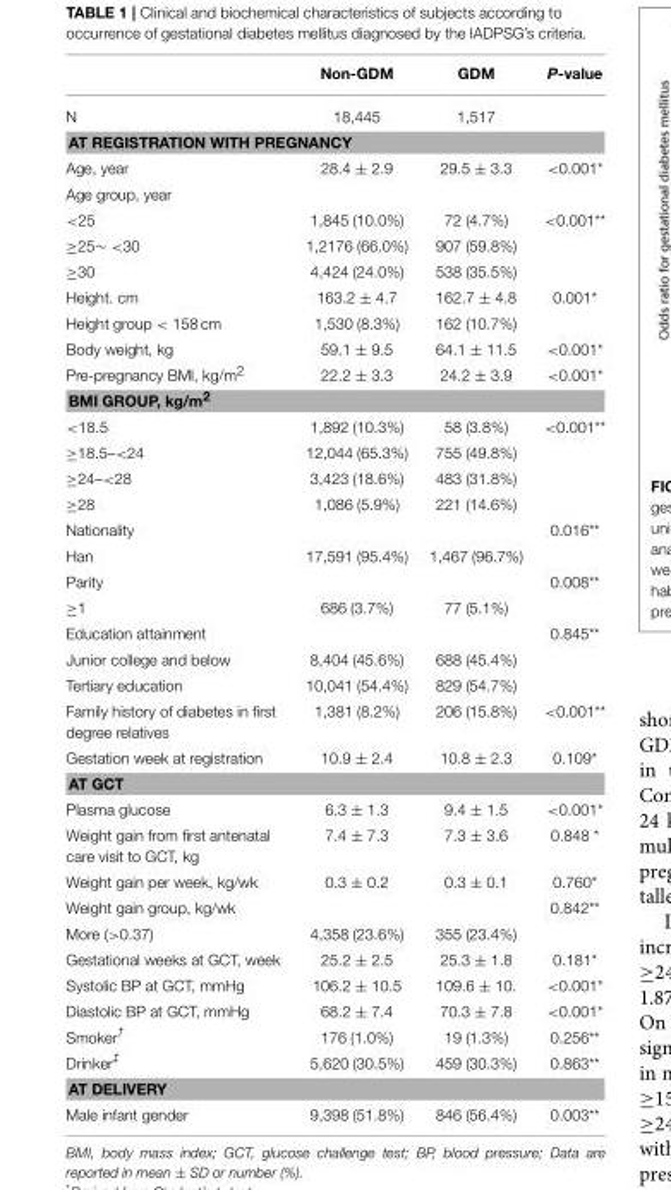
<table><thead><tr><td></td><td>Non-GDM</td><td>GDM</td><td>P-value</td></tr></thead><tbody><tr><td>N</td><td>18,445</td><td>1,517</td><td></td></tr><tr><td colspan="4">AT REGISTRATION WITH PREGNANCY</td></tr><tr><td>Age, year</td><td>28.4 ± 2.9</td><td>29.5 ± 3.3</td><td>&lt;0.001*</td></tr><tr><td colspan="4">Age group, year</td></tr><tr><td>&lt;25</td><td>1,845 (10.0%)</td><td>72 (4.7%)</td><td>&lt;0.001**</td></tr><tr><td>≥25∼ &lt;30</td><td>1,2176 (66.0%)</td><td>907 (59.8%)</td><td></td></tr><tr><td>≥30</td><td>4,424 (24.0%)</td><td>538 (35.5%)</td><td></td></tr><tr><td>Height. cm</td><td>163.2 ± 4.7</td><td>162.7 ± 4.8</td><td>0.001*</td></tr><tr><td>Height group &lt; 158 cm</td><td>1,530 (8.3%)</td><td>162 (10.7%)</td><td></td></tr><tr><td>Body weight, kg</td><td>59.1 ± 9.5</td><td>64.1 ± 11.5</td><td>&lt;0.001*</td></tr><tr><td>Pre-pregnancy BMI, kg/m<sup>2</sup></td><td>22.2 ± 3.3</td><td>24.2 ± 3.9</td><td>&lt;0.001*</td></tr><tr><td colspan="4">BMI GROUP, kg/m<sup>2</sup></td></tr><tr><td>&lt;18.5</td><td>1,892 (10.3%)</td><td>58 (3.8%)</td><td>&lt;0.001**</td></tr><tr><td>≥18.5–&lt;24</td><td>12,044 (65.3%)</td><td>755 (49.8%)</td><td></td></tr><tr><td>≥24–&lt;28</td><td>3,423 (18.6%)</td><td>483 (31.8%)</td><td></td></tr><tr><td>≥28</td><td>1,086 (5.9%)</td><td>221 (14.6%)</td><td></td></tr><tr><td>Nationality</td><td></td><td></td><td>0.016**</td></tr><tr><td>Han</td><td>17,591 (95.4%)</td><td>1,467 (96.7%)</td><td></td></tr><tr><td>Parity</td><td></td><td></td><td>0.008**</td></tr><tr><td>≥1</td><td>686 (3.7%)</td><td>77 (5.1%)</td><td></td></tr><tr><td>Education attainment</td><td></td><td></td><td>0.845**</td></tr><tr><td>Junior college and below</td><td>8,404 (45.6%)</td><td>688 (45.4%)</td><td></td></tr><tr><td>Tertiary education</td><td>10,041 (54.4%)</td><td>829 (54.7%)</td><td></td></tr><tr><td>Family history of diabetes in first degree relatives</td><td>1,381 (8.2%)</td><td>206 (15.8%)</td><td>&lt;0.001**</td></tr><tr><td>Gestation week at registration</td><td>10.9 ± 2.4</td><td>10.8 ± 2.3</td><td>0.109*</td></tr><tr><td colspan="4">AT GCT</td></tr><tr><td>Plasma glucose</td><td>6.3 ± 1.3</td><td>9.4 ± 1.5</td><td>&lt;0.001*</td></tr><tr><td>Weight gain from first antenatal care visit to GCT, kg</td><td>7.4 ± 7.3</td><td>7.3 ± 3.6</td><td>0.848 *</td></tr><tr><td>Weight gain per week, kg/wk</td><td>0.3 ± 0.2</td><td>0.3 ± 0.1</td><td>0.760*</td></tr><tr><td>Weight gain group, kg/wk</td><td></td><td></td><td>0.842**</td></tr><tr><td>More (&gt;0.37)</td><td>4,358 (23.6%)</td><td>355 (23.4%)</td><td></td></tr><tr><td>Gestational weeks at GCT, week</td><td>25.2 ± 2.5</td><td>25.3 ± 1.8</td><td>0.181*</td></tr><tr><td>Systolic BP at GCT, mmHg</td><td>106.2 ± 10.5</td><td>109.6 ± 10.</td><td>&lt;0.001*</td></tr><tr><td>Diastolic BP at GCT, mmHg</td><td>68.2 ± 7.4</td><td>70.3 ± 7.8</td><td>&lt;0.001*</td></tr><tr><td>Smoker<sup>†</sup></td><td>176 (1.0%)</td><td>19 (1.3%)</td><td>0.256**</td></tr><tr><td>Drinker<sup>‡</sup></td><td>5,620 (30.5%)</td><td>459 (30.3%)</td><td>0.863**</td></tr><tr><td colspan="4">AT DELIVERY</td></tr><tr><td>Male infant gender</td><td>9,398 (51.8%)</td><td>846 (56.4%)</td><td>0.003**</td></tr></tbody></table>